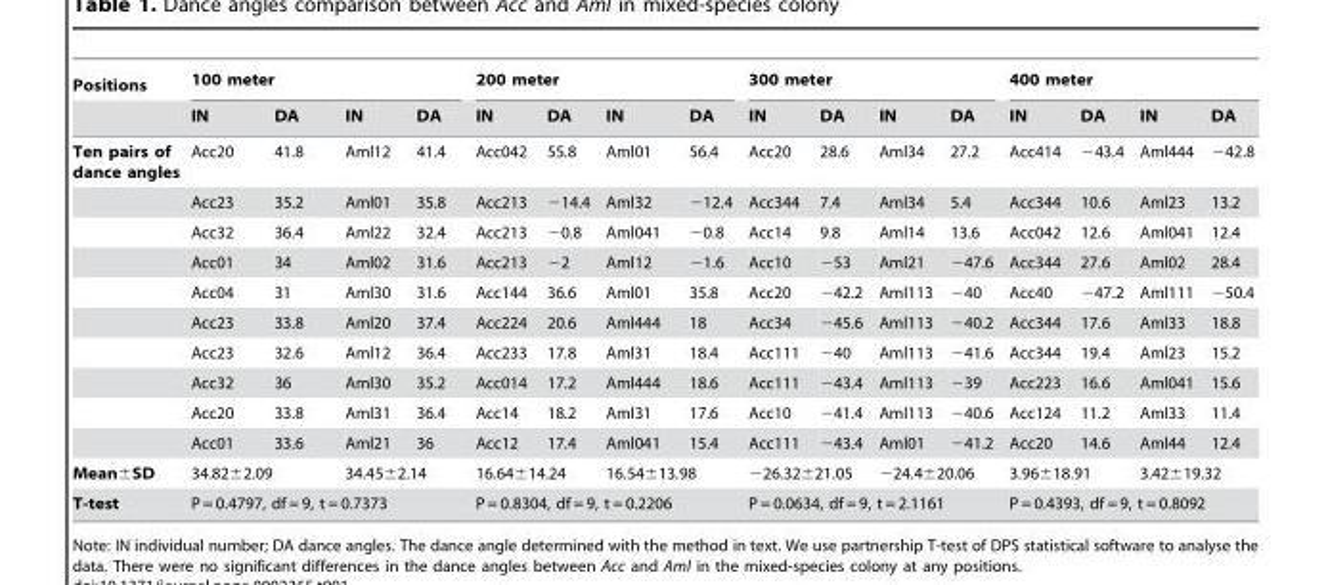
<table><thead><tr><td rowspan="2">Positions</td><td colspan="4">100 meter</td><td colspan="4">200 meter</td><td colspan="4">300 meter</td><td colspan="4">400 meter</td></tr><tr><td>IN</td><td>DA</td><td>IN</td><td>DA</td><td>IN</td><td>DA</td><td>IN</td><td>DA</td><td>IN</td><td>DA</td><td>IN</td><td>DA</td><td>IN</td><td>DA</td><td>IN</td><td>DA</td></tr></thead><tbody><tr><td rowspan="10">Ten pairs of dance angles</td><td>Acc20</td><td>41.8</td><td>Aml12</td><td>41.4</td><td>Acc042</td><td>55.8</td><td>Aml01</td><td>56.4</td><td>Acc20</td><td>28.6</td><td>Aml34</td><td>27.2</td><td>Acc414</td><td>−43.4</td><td>Aml444</td><td>−42.8</td></tr><tr><td>Acc23</td><td>35.2</td><td>Aml01</td><td>35.8</td><td>Acc213</td><td>−14.4</td><td>Aml32</td><td>−12.4</td><td>Acc344</td><td>7.4</td><td>Aml34</td><td>5.4</td><td>Acc344</td><td>10.6</td><td>Aml23</td><td>13.2</td></tr><tr><td>Acc32</td><td>36.4</td><td>Aml22</td><td>32.4</td><td>Acc213</td><td>−0.8</td><td>Aml041</td><td>−0.8</td><td>Acc14</td><td>9.8</td><td>Aml14</td><td>13.6</td><td>Acc042</td><td>12.6</td><td>Aml041</td><td>12.4</td></tr><tr><td>Acc01</td><td>34</td><td>Aml02</td><td>31.6</td><td>Acc213</td><td>−2</td><td>Aml12</td><td>−1.6</td><td>Acc10</td><td>−53</td><td>Aml21</td><td>−47.6</td><td>Acc344</td><td>27.6</td><td>Aml02</td><td>28.4</td></tr><tr><td>Acc04</td><td>31</td><td>Aml30</td><td>31.6</td><td>Acc144</td><td>36.6</td><td>Aml01</td><td>35.8</td><td>Acc20</td><td>−42.2</td><td>Aml113</td><td>−40</td><td>Acc40</td><td>−47.2</td><td>Aml111</td><td>−50.4</td></tr><tr><td>Acc23</td><td>33.8</td><td>Aml20</td><td>37.4</td><td>Acc224</td><td>20.6</td><td>Aml444</td><td>18</td><td>Acc34</td><td>−45.6</td><td>Aml113</td><td>−40.2</td><td>Acc344</td><td>17.6</td><td>Aml33</td><td>18.8</td></tr><tr><td>Acc23</td><td>32.6</td><td>Aml12</td><td>36.4</td><td>Acc233</td><td>17.8</td><td>Aml31</td><td>18.4</td><td>Acc111</td><td>−40</td><td>Aml113</td><td>−41.6</td><td>Acc344</td><td>19.4</td><td>Aml23</td><td>15.2</td></tr><tr><td>Acc32</td><td>36</td><td>Aml30</td><td>35.2</td><td>Acc014</td><td>17.2</td><td>Aml444</td><td>18.6</td><td>Acc111</td><td>−43.4</td><td>Aml113</td><td>−39</td><td>Acc223</td><td>16.6</td><td>Aml041</td><td>15.6</td></tr><tr><td>Acc20</td><td>33.8</td><td>Aml31</td><td>36.4</td><td>Acc14</td><td>18.2</td><td>Aml31</td><td>17.6</td><td>Acc10</td><td>−41.4</td><td>Aml113</td><td>−40.6</td><td>Acc124</td><td>11.2</td><td>Aml33</td><td>11.4</td></tr><tr><td>Acc01</td><td>33.6</td><td>Aml21</td><td>36</td><td>Acc12</td><td>17.4</td><td>Aml041</td><td>15.4</td><td>Acc111</td><td>−43.4</td><td>Aml01</td><td>−41.2</td><td>Acc20</td><td>14.6</td><td>Aml44</td><td>12.4</td></tr><tr><td>Mean±SD</td><td colspan="2">34.82±2.09</td><td colspan="2">34.45±2.14</td><td colspan="2">16.64±14.24</td><td colspan="2">16.54±13.98</td><td colspan="2">−26.32±21.05</td><td colspan="2">−24.4±20.06</td><td colspan="2">3.96±18.91</td><td colspan="2">3.42±19.32</td></tr><tr><td>T-test</td><td colspan="4">P = 0.4797, df = 9, t = 0.7373</td><td colspan="4">P = 0.8304, df = 9, t = 0.2206</td><td colspan="4">P = 0.0634, df = 9, t = 2.1161</td><td colspan="4">P = 0.4393, df = 9, t = 0.8092</td></tr></tbody></table>